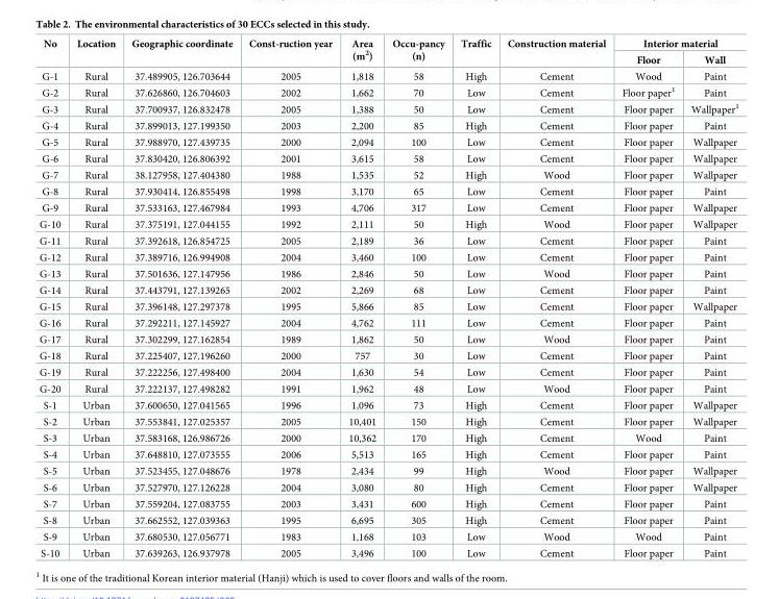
<table><thead><tr><td rowspan="2">No</td><td rowspan="2">Location</td><td rowspan="2">Geographic coordinate</td><td rowspan="2">Const-ruction year</td><td rowspan="2">Area (m<sup>2</sup>)</td><td rowspan="2">Occu-pancy (n)</td><td rowspan="2">Traffic</td><td rowspan="2">Construction material</td><td colspan="2">Interior material</td></tr><tr><td>Floor</td><td>Wall</td></tr></thead><tbody><tr><td>G-1</td><td>Rural</td><td>37.489905, 126.703644</td><td>2005</td><td>1,818</td><td>58</td><td>High</td><td>Cement</td><td>Wood</td><td>Paint</td></tr><tr><td>G-2</td><td>Rural</td><td>37.626860, 126.704603</td><td>2002</td><td>1,662</td><td>70</td><td>Low</td><td>Cement</td><td>Floor paper<sup>1</sup></td><td>Paint</td></tr><tr><td>G-3</td><td>Rural</td><td>37.700937, 126.832478</td><td>2005</td><td>1,388</td><td>50</td><td>Low</td><td>Cement</td><td>Floor paper</td><td>Wallpaper<sup>1</sup></td></tr><tr><td>G-4</td><td>Rural</td><td>37.899013, 127.199350</td><td>2003</td><td>2,200</td><td>85</td><td>High</td><td>Cement</td><td>Floor paper</td><td>Paint</td></tr><tr><td>G-5</td><td>Rural</td><td>37.988970, 127.439735</td><td>2000</td><td>2,094</td><td>100</td><td>Low</td><td>Cement</td><td>Floor paper</td><td>Wallpaper</td></tr><tr><td>G-6</td><td>Rural</td><td>37.830420, 126.806392</td><td>2001</td><td>3,615</td><td>58</td><td>Low</td><td>Cement</td><td>Floor paper</td><td>Wallpaper</td></tr><tr><td>G-7</td><td>Rural</td><td>38.127958, 127.404380</td><td>1988</td><td>1,535</td><td>52</td><td>High</td><td>Wood</td><td>Floor paper</td><td>Wallpaper</td></tr><tr><td>G-8</td><td>Rural</td><td>37.930414, 126.855498</td><td>1998</td><td>3,170</td><td>65</td><td>Low</td><td>Cement</td><td>Floor paper</td><td>Paint</td></tr><tr><td>G-9</td><td>Rural</td><td>37.533163, 127.467984</td><td>1993</td><td>4,706</td><td>317</td><td>Low</td><td>Cement</td><td>Floor paper</td><td>Wallpaper</td></tr><tr><td>G-10</td><td>Rural</td><td>37.375191, 127.044155</td><td>1992</td><td>2,111</td><td>50</td><td>High</td><td>Wood</td><td>Floor paper</td><td>Wallpaper</td></tr><tr><td>G-11</td><td>Rural</td><td>37.392618, 126.854725</td><td>2005</td><td>2,189</td><td>36</td><td>Low</td><td>Cement</td><td>Floor paper</td><td>Paint</td></tr><tr><td>G-12</td><td>Rural</td><td>37.389716, 126.994908</td><td>2004</td><td>3,460</td><td>100</td><td>Low</td><td>Cement</td><td>Floor paper</td><td>Paint</td></tr><tr><td>G-13</td><td>Rural</td><td>37.501636, 127.147956</td><td>1986</td><td>2,846</td><td>50</td><td>Low</td><td>Wood</td><td>Floor paper</td><td>Paint</td></tr><tr><td>G-14</td><td>Rural</td><td>37.443791, 127.139265</td><td>2002</td><td>2,269</td><td>68</td><td>Low</td><td>Cement</td><td>Floor paper</td><td>Paint</td></tr><tr><td>G-15</td><td>Rural</td><td>37.396148, 127.297378</td><td>1995</td><td>5,866</td><td>85</td><td>Low</td><td>Cement</td><td>Floor paper</td><td>Wallpaper</td></tr><tr><td>G-16</td><td>Rural</td><td>37.292211, 127.145927</td><td>2004</td><td>4,762</td><td>111</td><td>Low</td><td>Cement</td><td>Floor paper</td><td>Paint</td></tr><tr><td>G-17</td><td>Rural</td><td>37.302299, 127.162854</td><td>1989</td><td>1,862</td><td>50</td><td>Low</td><td>Wood</td><td>Floor paper</td><td>Paint</td></tr><tr><td>G-18</td><td>Rural</td><td>37.225407, 127.196260</td><td>2000</td><td>757</td><td>30</td><td>Low</td><td>Cement</td><td>Floor paper</td><td>Paint</td></tr><tr><td>G-19</td><td>Rural</td><td>37.222256, 127.498400</td><td>2004</td><td>1,630</td><td>54</td><td>Low</td><td>Cement</td><td>Floor paper</td><td>Paint</td></tr><tr><td>G-20</td><td>Rural</td><td>37.222137, 127.498282</td><td>1991</td><td>1,962</td><td>48</td><td>Low</td><td>Wood</td><td>Floor paper</td><td>Paint</td></tr><tr><td>S-1</td><td>Urban</td><td>37.600650, 127.041565</td><td>1996</td><td>1,096</td><td>73</td><td>High</td><td>Cement</td><td>Floor paper</td><td>Wallpaper</td></tr><tr><td>S-2</td><td>Urban</td><td>37.553841, 127.025357</td><td>2005</td><td>10,401</td><td>150</td><td>High</td><td>Cement</td><td>Floor paper</td><td>Wallpaper</td></tr><tr><td>S-3</td><td>Urban</td><td>37.583168, 126.986726</td><td>2000</td><td>10,362</td><td>170</td><td>High</td><td>Cement</td><td>Wood</td><td>Paint</td></tr><tr><td>S-4</td><td>Urban</td><td>37.648810, 127.073555</td><td>2006</td><td>5,513</td><td>165</td><td>High</td><td>Cement</td><td>Floor paper</td><td>Paint</td></tr><tr><td>S-5</td><td>Urban</td><td>37.523455, 127.048676</td><td>1978</td><td>2,434</td><td>99</td><td>High</td><td>Wood</td><td>Floor paper</td><td>Wallpaper</td></tr><tr><td>S-6</td><td>Urban</td><td>37.527970, 127.126228</td><td>2004</td><td>3,080</td><td>80</td><td>High</td><td>Cement</td><td>Floor paper</td><td>Wallpaper</td></tr><tr><td>S-7</td><td>Urban</td><td>37.559204, 127.083755</td><td>2003</td><td>3,431</td><td>600</td><td>High</td><td>Cement</td><td>Floor paper</td><td>Paint</td></tr><tr><td>S-8</td><td>Urban</td><td>37.662552, 127.039363</td><td>1995</td><td>6,695</td><td>305</td><td>High</td><td>Cement</td><td>Floor paper</td><td>Paint</td></tr><tr><td>S-9</td><td>Urban</td><td>37.680530, 127.056771</td><td>1983</td><td>1,168</td><td>103</td><td>Low</td><td>Wood</td><td>Wood</td><td>Paint</td></tr><tr><td>S-10</td><td>Urban</td><td>37.639263, 126.937978</td><td>2005</td><td>3,496</td><td>100</td><td>Low</td><td>Cement</td><td>Floor paper</td><td>Paint</td></tr></tbody></table>